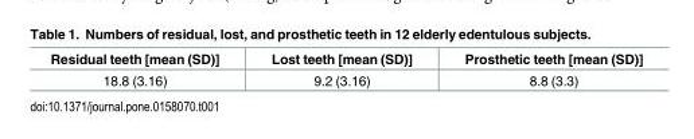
<table><thead><tr><td>Residual teeth [mean (SD)]</td><td>Lost teeth [mean (SD)]</td><td>Prosthetic teeth [mean (SD)]</td></tr></thead><tbody><tr><td>18.8 (3.16)</td><td>9.2 (3.16)</td><td>8.8 (3.3)</td></tr></tbody></table>